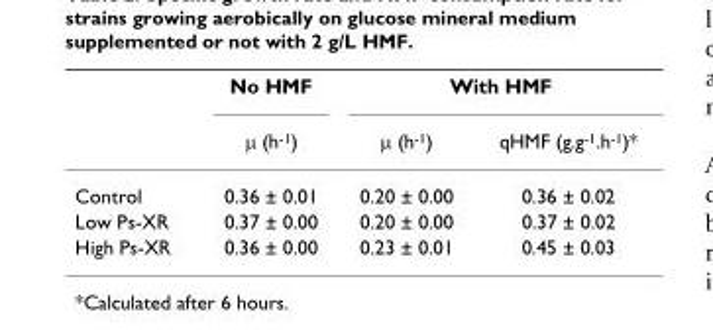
<table><thead><tr><td rowspan="2"></td><td rowspan="2">No HMF μ (h<sup>-1</sup>)</td><td colspan="2">With HMF</td></tr><tr><td>μ (h<sup>-1</sup>)</td><td>qHMF (g.g<sup>-1</sup>.h<sup>-1</sup>)*</td></tr></thead><tbody><tr><td>Control</td><td>0.36 ± 0.01</td><td>0.20 ± 0.00</td><td>0.36 ± 0.02</td></tr><tr><td>Low Ps-XR</td><td>0.37 ± 0.00</td><td>0.20 ± 0.00</td><td>0.37 ± 0.02</td></tr><tr><td>High Ps-XR</td><td>0.36 ± 0.00</td><td>0.23 ± 0.01</td><td>0.45 ± 0.03</td></tr></tbody></table>